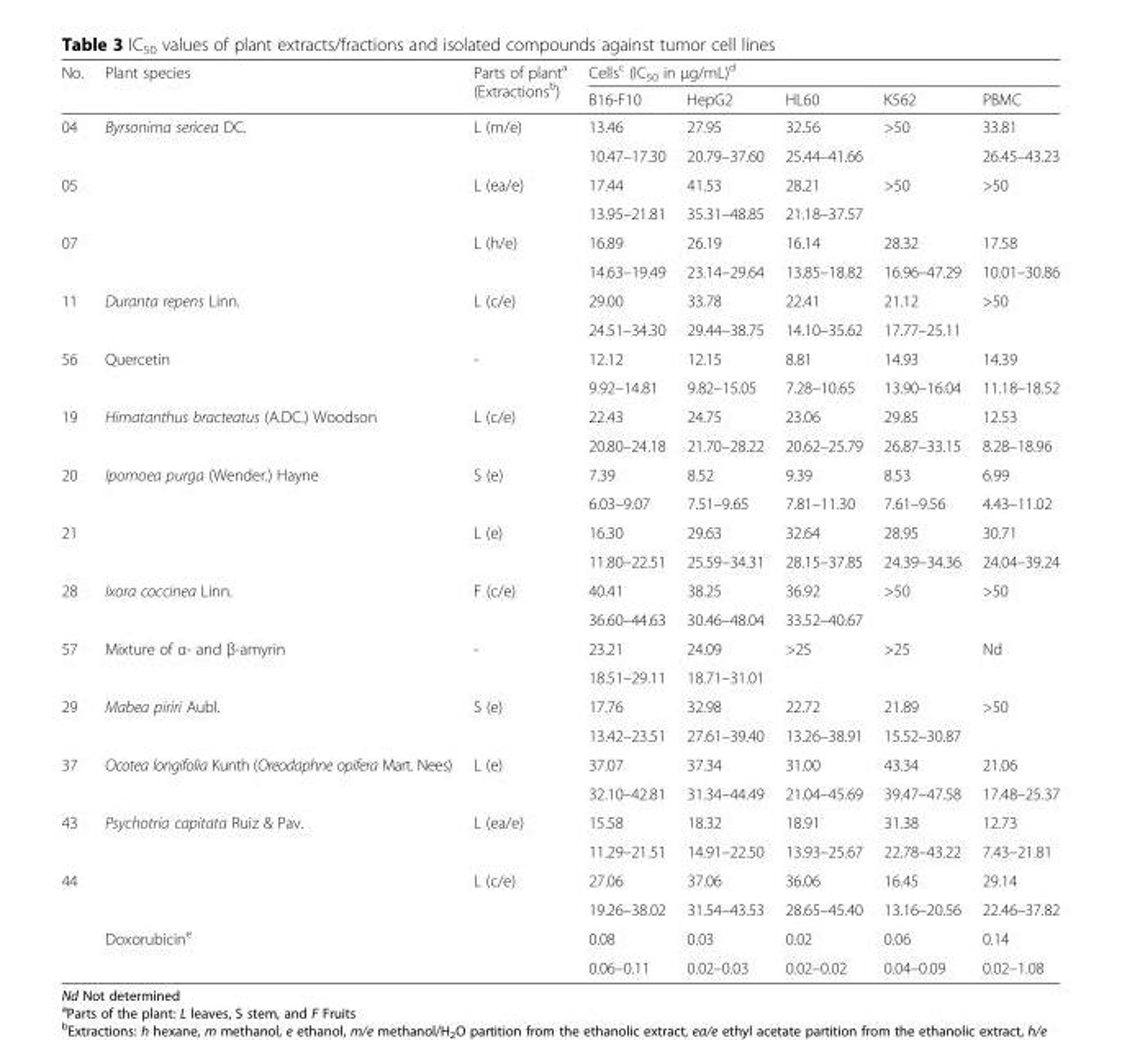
<table><thead><tr><td rowspan="2">No.</td><td rowspan="2">Plant species</td><td rowspan="2">Parts of plant<sup>a</sup> (Extractions<sup>b</sup>)</td><td colspan="5">Cells<sup>c</sup> (IC<sub>50</sub> in μg/mL)<sup>d</sup></td></tr><tr><td>B16-F10</td><td>HepG2</td><td>HL60</td><td>K562</td><td>PBMC</td></tr></thead><tbody><tr><td rowspan="2">04</td><td rowspan="6">Byrsonima sericea DC.</td><td rowspan="2">L (m/e)</td><td>13.46</td><td>27.95</td><td>32.56</td><td rowspan="2">&gt;50</td><td>33.81</td></tr><tr><td>10.47–17.30</td><td>20.79–37.60</td><td>25.44–41.66</td><td>26.45–43.23</td></tr><tr><td rowspan="2">05</td><td rowspan="2">L (ea/e)</td><td>17.44</td><td>41.53</td><td>28.21</td><td rowspan="2">&gt;50</td><td rowspan="2">&gt;50</td></tr><tr><td>13.95–21.81</td><td>35.31–48.85</td><td>21.18–37.57</td></tr><tr><td rowspan="2">07</td><td rowspan="2">L (h/e)</td><td>16.89</td><td>26.19</td><td>16.14</td><td>28.32</td><td>17.58</td></tr><tr><td>14.63–19.49</td><td>23.14–29.64</td><td>13.85–18.82</td><td>16.96–47.29</td><td>10.01–30.86</td></tr><tr><td rowspan="2">11</td><td rowspan="2">Duranta repens Linn.</td><td rowspan="2">L (c/e)</td><td>29.00</td><td>33.78</td><td>22.41</td><td>21.12</td><td rowspan="2">&gt;50</td></tr><tr><td>24.51–34.30</td><td>29.44–38.75</td><td>14.10–35.62</td><td>17.77–25.11</td></tr><tr><td rowspan="2">56</td><td rowspan="2">Quercetin</td><td rowspan="2">-</td><td>12.12</td><td>12.15</td><td>8.81</td><td>14.93</td><td>14.39</td></tr><tr><td>9.92–14.81</td><td>9.82–15.05</td><td>7.28–10.65</td><td>13.90–16.04</td><td>11.18–18.52</td></tr><tr><td rowspan="2">19</td><td rowspan="2">Himatanthus bracteatus (A.DC.) Woodson</td><td rowspan="2">L (c/e)</td><td>22.43</td><td>24.75</td><td>23.06</td><td>29.85</td><td>12.53</td></tr><tr><td>20.80–24.18</td><td>21.70–28.22</td><td>20.62–25.79</td><td>26.87–33.15</td><td>8.28–18.96</td></tr><tr><td rowspan="2">20</td><td rowspan="4">Ipomoea purga (Wender.) Hayne</td><td rowspan="2">S (e)</td><td>7.39</td><td>8.52</td><td>9.39</td><td>8.53</td><td>6.99</td></tr><tr><td>6.03–9.07</td><td>7.51–9.65</td><td>7.81–11.30</td><td>7.61–9.56</td><td>4.43–11.02</td></tr><tr><td rowspan="2">21</td><td rowspan="2">L (e)</td><td>16.30</td><td>29.63</td><td>32.64</td><td>28.95</td><td>30.71</td></tr><tr><td>11.80–22.51</td><td>25.59–34.31</td><td>28.15–37.85</td><td>24.39–34.36</td><td>24.04–39.24</td></tr><tr><td rowspan="2">28</td><td rowspan="2">Ixora coccinea Linn.</td><td rowspan="2">F (c/e)</td><td>40.41</td><td>38.25</td><td>36.92</td><td rowspan="2">&gt;50</td><td rowspan="2">&gt;50</td></tr><tr><td>36.60–44.63</td><td>30.46–48.04</td><td>33.52–40.67</td></tr><tr><td rowspan="2">57</td><td rowspan="2">Mixture of α- and β-amyrin</td><td rowspan="2">-</td><td>23.21</td><td>24.09</td><td rowspan="2">&gt;25</td><td rowspan="2">&gt;25</td><td rowspan="2">Nd</td></tr><tr><td>18.51–29.11</td><td>18.71–31.01</td></tr><tr><td rowspan="2">29</td><td rowspan="2">Mabea piriri Aubl.</td><td rowspan="2">S (e)</td><td>17.76</td><td>32.98</td><td>22.72</td><td>21.89</td><td rowspan="2">&gt;50</td></tr><tr><td>13.42–23.51</td><td>27.61–39.40</td><td>13.26–38.91</td><td>15.52–30.87</td></tr><tr><td rowspan="2">37</td><td rowspan="2">Ocotea longifolia Kunth (Oreodaphne opifera Mart. Nees)</td><td rowspan="2">L (e)</td><td>37.07</td><td>37.34</td><td>31.00</td><td>43.34</td><td>21.06</td></tr><tr><td>32.10–42.81</td><td>31.34–44.49</td><td>21.04–45.69</td><td>39.47–47.58</td><td>17.48–25.37</td></tr><tr><td rowspan="2">43</td><td rowspan="4">Psychotria capitata Ruiz &amp; Pav.</td><td rowspan="2">L (ea/e)</td><td>15.58</td><td>18.32</td><td>18.91</td><td>31.38</td><td>12.73</td></tr><tr><td>11.29–21.51</td><td>14.91–22.50</td><td>13.93–25.67</td><td>22.78–43.22</td><td>7.43–21.81</td></tr><tr><td rowspan="4">44</td><td rowspan="2">L (c/e)</td><td>27.06</td><td>37.06</td><td>36.06</td><td>16.45</td><td>29.14</td></tr><tr><td>19.26–38.02</td><td>31.54–43.53</td><td>28.65–45.40</td><td>13.16–20.56</td><td>22.46–37.82</td></tr><tr><td rowspan="2">Doxorubicin<sup>e</sup></td><td rowspan="2"></td><td>0.08</td><td>0.03</td><td>0.02</td><td>0.06</td><td>0.14</td></tr><tr><td>0.06–0.11</td><td>0.02–0.03</td><td>0.02–0.02</td><td>0.04–0.09</td><td>0.02–1.08</td></tr></tbody></table>